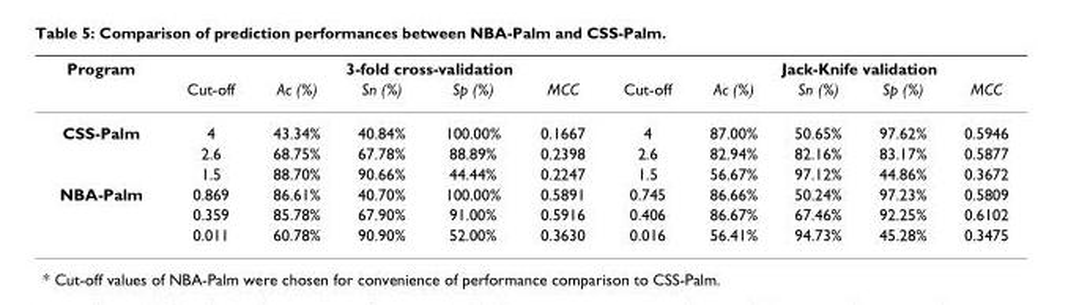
<table><thead><tr><td rowspan="2">Program</td><td rowspan="2">Cut-off</td><td colspan="4">3-fold cross-validation</td><td rowspan="2">Cut-off</td><td colspan="4">Jack-Knife validation</td></tr><tr><td>Ac (%)</td><td>Sn (%)</td><td>Sp (%)</td><td>MCC</td><td>Ac (%)</td><td>Sn (%)</td><td>Sp (%)</td><td>MCC</td></tr></thead><tbody><tr><td rowspan="3">CSS-Palm</td><td>4</td><td>43.34%</td><td>40.84%</td><td>100.00%</td><td>0.1667</td><td>4</td><td>87.00%</td><td>50.65%</td><td>97.62%</td><td>0.5946</td></tr><tr><td>2.6</td><td>68.75%</td><td>67.78%</td><td>88.89%</td><td>0.2398</td><td>2.6</td><td>82.94%</td><td>82.16%</td><td>83.17%</td><td>0.5877</td></tr><tr><td>1.5</td><td>88.70%</td><td>90.66%</td><td>44.44%</td><td>0.2247</td><td>1.5</td><td>56.67%</td><td>97.12%</td><td>44.86%</td><td>0.3672</td></tr><tr><td rowspan="3">NBA-Palm</td><td>0.869</td><td>86.61%</td><td>40.70%</td><td>100.00%</td><td>0.5891</td><td>0.745</td><td>86.66%</td><td>50.24%</td><td>97.23%</td><td>0.5809</td></tr><tr><td>0.359</td><td>85.78%</td><td>67.90%</td><td>91.00%</td><td>0.5916</td><td>0.406</td><td>86.67%</td><td>67.46%</td><td>92.25%</td><td>0.6102</td></tr><tr><td>0.011</td><td>60.78%</td><td>90.90%</td><td>52.00%</td><td>0.3630</td><td>0.016</td><td>56.41%</td><td>94.73%</td><td>45.28%</td><td>0.3475</td></tr></tbody></table>